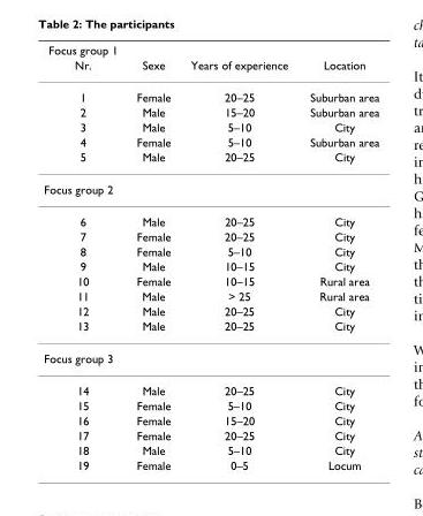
<table><thead><tr><td rowspan="2">Focus group 1 Nr.</td><td rowspan="2">Sexe</td><td rowspan="2">Years of experience</td><td rowspan="2">Location</td></tr><tr></tr></thead><tbody><tr><td>1</td><td>Female</td><td>20–25</td><td>Suburban area</td></tr><tr><td>2</td><td>Male</td><td>15–20</td><td>Suburban area</td></tr><tr><td>3</td><td>Male</td><td>5–10</td><td>City</td></tr><tr><td>4</td><td>Female</td><td>5–10</td><td>Suburban area</td></tr><tr><td>5</td><td>Male</td><td>20–25</td><td>City</td></tr><tr><td colspan="4">Focus group 2</td></tr><tr><td>6</td><td>Male</td><td>20–25</td><td>City</td></tr><tr><td>7</td><td>Female</td><td>20–25</td><td>City</td></tr><tr><td>8</td><td>Female</td><td>5–10</td><td>City</td></tr><tr><td>9</td><td>Male</td><td>10–15</td><td>City</td></tr><tr><td>10</td><td>Female</td><td>10–15</td><td>Rural area</td></tr><tr><td>11</td><td>Male</td><td>&gt; 25</td><td>Rural area</td></tr><tr><td>12</td><td>Male</td><td>20–25</td><td>City</td></tr><tr><td>13</td><td>Male</td><td>20–25</td><td>City</td></tr><tr><td colspan="4">Focus group 3</td></tr><tr><td>14</td><td>Male</td><td>20–25</td><td>City</td></tr><tr><td>15</td><td>Female</td><td>5–10</td><td>City</td></tr><tr><td>16</td><td>Female</td><td>15–20</td><td>City</td></tr><tr><td>17</td><td>Female</td><td>20–25</td><td>City</td></tr><tr><td>18</td><td>Male</td><td>5–10</td><td>City</td></tr><tr><td>19</td><td>Female</td><td>0–5</td><td>Locum</td></tr></tbody></table>